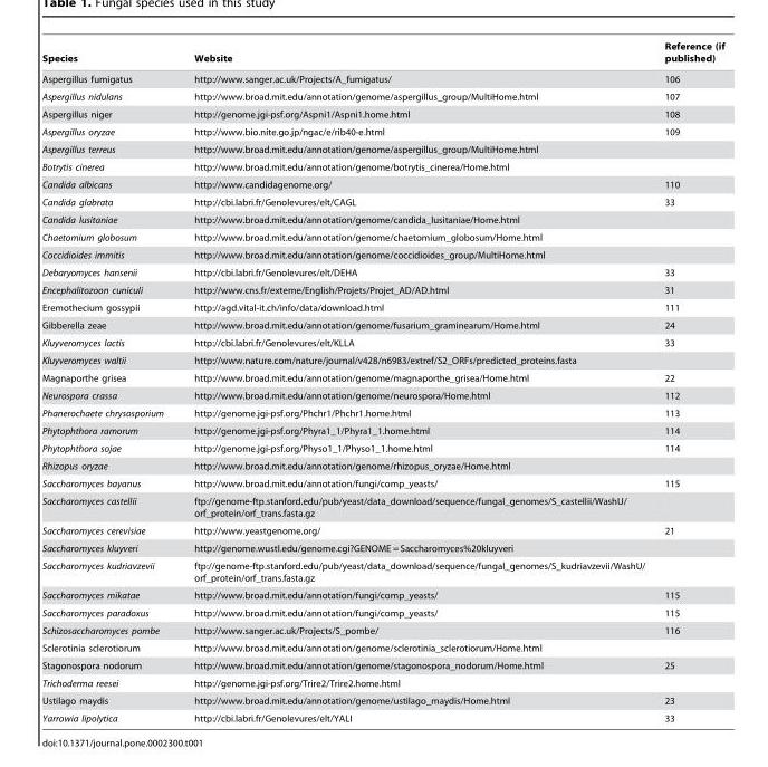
<table><thead><tr><td>Species</td><td>Website</td><td>Reference (if published)</td></tr></thead><tbody><tr><td>Aspergillus fumigatus</td><td>http://www.sanger.ac.uk/Projects/A_fumigatus/</td><td>106</td></tr><tr><td>Aspergillus nidulans</td><td>http://www.broad.mit.edu/annotation/genome/aspergillus_group/MultiHome.html</td><td>107</td></tr><tr><td>Aspergillus niger</td><td>http://genome.jgi-psf.org/Aspni1/Aspni1.home.html</td><td>108</td></tr><tr><td>Aspergillus oryzae</td><td>http://www.bio.nite.go.jp/ngac/e/rib40-e.html</td><td>109</td></tr><tr><td>Aspergillus terreus</td><td>http://www.broad.mit.edu/annotation/genome/aspergillus_group/MultiHome.html</td><td></td></tr><tr><td>Botrytis cinerea</td><td>http://www.broad.mit.edu/annotation/genome/botrytis_cinerea/Home.html</td><td></td></tr><tr><td>Candida albicans</td><td>http://www.candidagenome.org/</td><td>110</td></tr><tr><td>Candida glabrata</td><td>http://cbi.labri.fr/Genolevures/elt/CAGL</td><td>33</td></tr><tr><td>Candida lusitaniae</td><td>http://www.broad.mit.edu/annotation/genome/candida_lusitaniae/Home.html</td><td></td></tr><tr><td>Chaetomium globosum</td><td>http://www.broad.mit.edu/annotation/genome/chaetomium_globosum/Home.html</td><td></td></tr><tr><td>Coccidioides immitis</td><td>http://www.broad.mit.edu/annotation/genome/coccidioides_group/MultiHome.html</td><td></td></tr><tr><td>Debaryomyces hansenii</td><td>http://cbi.labri.fr/Genolevures/elt/DEHA</td><td>33</td></tr><tr><td>Encephalitozoon cuniculi</td><td>http://www.cns.fr/externe/English/Projets/Projet_AD/AD.html</td><td>31</td></tr><tr><td>Eremothecium gossypii</td><td>http://agd.vital-it.ch/info/data/download.html</td><td>111</td></tr><tr><td>Gibberella zeae</td><td>http://www.broad.mit.edu/annotation/genome/fusarium_graminearum/Home.html</td><td>24</td></tr><tr><td>Kluyveromyces lactis</td><td>http://cbi.labri.fr/Genolevures/elt/KLLA</td><td>33</td></tr><tr><td>Kluyveromyces waltii</td><td>http://www.nature.com/nature/journal/v428/n6983/extref/S2_ORFs/predicted_proteins.fasta</td><td></td></tr><tr><td>Magnaporthe grisea</td><td>http://www.broad.mit.edu/annotation/genome/magnaporthe_grisea/Home.html</td><td>22</td></tr><tr><td>Neurospora crassa</td><td>http://www.broad.mit.edu/annotation/genome/neurospora/Home.html</td><td>112</td></tr><tr><td>Phanerochaete chrysosporium</td><td>http://genome.jgi-psf.org/Phchr1/Phchr1.home.html</td><td>113</td></tr><tr><td>Phytophthora ramorum</td><td>http://genome.jgi-psf.org/Phyra1_1/Phyra1_1.home.html</td><td>114</td></tr><tr><td>Phytophthora sojae</td><td>http://genome.jgi-psf.org/Physo1_1/Physo1_1.home.html</td><td>114</td></tr><tr><td>Rhizopus oryzae</td><td>http://www.broad.mit.edu/annotation/genome/rhizopus_oryzae/Home.html</td><td></td></tr><tr><td>Saccharomyces bayanus</td><td>http://www.broad.mit.edu/annotation/fungi/comp_yeasts/</td><td>115</td></tr><tr><td>Saccharomyces castellii</td><td>ftp://genome-ftp.stanford.edu/pub/yeast/data_download/sequence/fungal_genomes/S_castellii/WashU/ orf_protein/orf_trans.fasta.gz</td><td></td></tr><tr><td>Saccharomyces cerevisiae</td><td>http://www.yeastgenome.org/</td><td>21</td></tr><tr><td>Saccharomyces kluyveri</td><td>http://genome.wustl.edu/genome.cgi?GENOME = Saccharomyces%20kluyveri</td><td></td></tr><tr><td>Saccharomyces kudriavzevii</td><td>ftp://genome-ftp.stanford.edu/pub/yeast/data_download/sequence/fungal_genomes/S_kudriavzevii/WashU/ orf_protein/orf_trans.fasta.gz</td><td></td></tr><tr><td>Saccharomyces mikatae</td><td>http://www.broad.mit.edu/annotation/fungi/comp_yeasts/</td><td>115</td></tr><tr><td>Saccharomyces paradoxus</td><td>http://www.broad.mit.edu/annotation/fungi/comp_yeasts/</td><td>115</td></tr><tr><td>Schizosaccharomyces pombe</td><td>http://www.sanger.ac.uk/Projects/S_pombe/</td><td>116</td></tr><tr><td>Sclerotinia sclerotiorum</td><td>http://www.broad.mit.edu/annotation/genome/sclerotinia_sclerotiorum/Home.html</td><td></td></tr><tr><td>Stagonospora nodorum</td><td>http://www.broad.mit.edu/annotation/genome/stagonospora_nodorum/Home.html</td><td>25</td></tr><tr><td>Trichoderma reesei</td><td>http://genome.jgi-psf.org/Trire2/Trire2.home.html</td><td></td></tr><tr><td>Ustilago maydis</td><td>http://www.broad.mit.edu/annotation/genome/ustilago_maydis/Home.html</td><td>23</td></tr><tr><td>Yarrowia lipolytica</td><td>http://cbi.labri.fr/Genolevures/elt/YALI</td><td>33</td></tr></tbody></table>